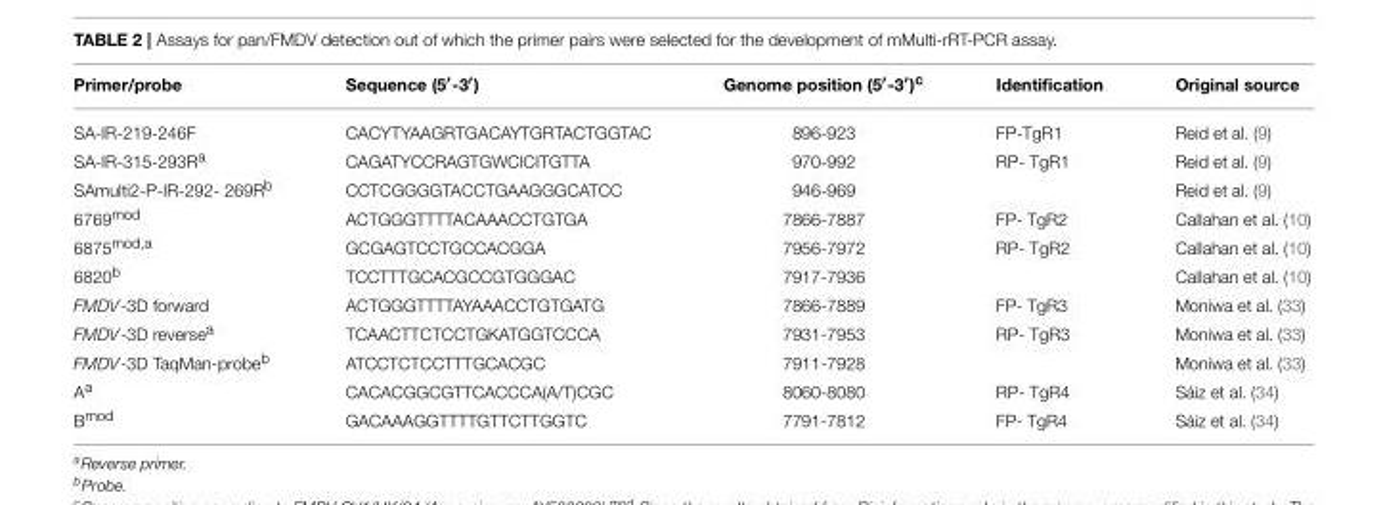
<table><thead><tr><td>Primer/probe</td><td>Sequence (5<sup>′</sup>-3<sup>′</sup>)</td><td>Genome position (5<sup>′</sup>-3<sup>′</sup>)<sup>c</sup></td><td>Identification</td><td>Original source</td></tr></thead><tbody><tr><td>SA-IR-219-246F</td><td>CACYTYAAGRTGACAYTGRTACTGGTAC</td><td>896-923</td><td>FP-TgR1</td><td>Reid et al. (9)</td></tr><tr><td>SA-IR-315-293R<sup>a</sup></td><td>CAGATYCCRAGTGWCICITGTTA</td><td>970-992</td><td>RP- TgR1</td><td>Reid et al. (9)</td></tr><tr><td>SAmulti2-P-IR-292- 269R<sup>b</sup></td><td>CCTCGGGGTACCTGAAGGGCATCC</td><td>946-969</td><td></td><td>Reid et al. (9)</td></tr><tr><td>6769<sup>mod</sup></td><td>ACTGGGTTTTACAAACCTGTGA</td><td>7866-7887</td><td>FP- TgR2</td><td>Callahan et al. (10)</td></tr><tr><td>6875<sup>mod,a</sup></td><td>GCGAGTCCTGCCACGGA</td><td>7956-7972</td><td>RP- TgR2</td><td>Callahan et al. (10)</td></tr><tr><td>6820<sup>b</sup></td><td>TCCTTTGCACGCCGTGGGAC</td><td>7917-7936</td><td></td><td>Callahan et al. (10)</td></tr><tr><td>FMDV-3D forward</td><td>ACTGGGTTTTAYAAACCTGTGATG</td><td>7866-7889</td><td>FP- TgR3</td><td>Moniwa et al. (33)</td></tr><tr><td>FMDV-3D reverse<sup>a</sup></td><td>TCAACTTCTCCTGKATGGTCCCA</td><td>7931-7953</td><td>RP- TgR3</td><td>Moniwa et al. (33)</td></tr><tr><td>FMDV-3D TaqMan-probe<sup>b</sup></td><td>ATCCTCTCCTTTGCACGC</td><td>7911-7928</td><td></td><td>Moniwa et al. (33)</td></tr><tr><td>A<sup>a</sup></td><td>CACACGGCGTTCACCCA(A/T)CGC</td><td>8060-8080</td><td>RP- TgR4</td><td>Sáiz et al. (34)</td></tr><tr><td>B<sup>mod</sup></td><td>GACAAAGGTTTTGTTCTTGGTC</td><td>7791-7812</td><td>FP- TgR4</td><td>Sáiz et al. (34)</td></tr></tbody></table>